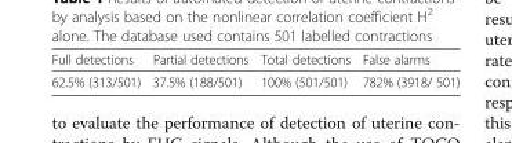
<table><thead><tr><td>Full detections</td><td>Partial detections</td><td>Total detections</td><td>False alarms</td></tr></thead><tbody><tr><td>62.5% (313/501)</td><td>37.5% (188/501)</td><td>100% (501/501)</td><td>782% (3918/ 501)</td></tr></tbody></table>